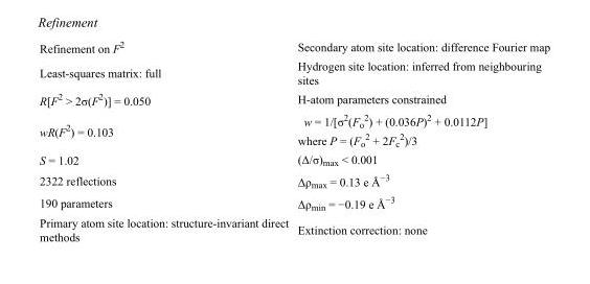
<table><tbody><tr><td>Refinement on F<sup>2</sup></td><td>Secondary atom site location: difference Fourier map</td></tr><tr><td>Least-squares matrix: full</td><td>Hydrogen site location: inferred from neighbouring sites</td></tr><tr><td>R[F<sup>2</sup> &gt; 2σ(F<sup>2</sup>)] = 0.050</td><td>H-atom parameters constrained</td></tr><tr><td>wR(F<sup>2</sup>) = 0.103</td><td>w = 1/[σ<sup>2</sup>(F<sub>o</sub> <sup>2</sup>) + (0.036P)<sup>2</sup> + 0.0112P] where P = (F<sub>o</sub> <sup>2</sup> + 2F<sub>c</sub> <sup>2</sup>)/3</td></tr><tr><td>S = 1.02</td><td>(Δ/σ)<sub>max</sub> &lt; 0.001</td></tr><tr><td>2322 reflections</td><td>Δρ<sub>max</sub> = 0.13 e Å<sup>−3</sup></td></tr><tr><td>190 parameters</td><td>Δρ<sub>min</sub> = −0.19 e Å<sup>−3</sup></td></tr><tr><td>Primary atom site location: structure-invariant direct methods</td><td>Extinction correction: none</td></tr></tbody></table>